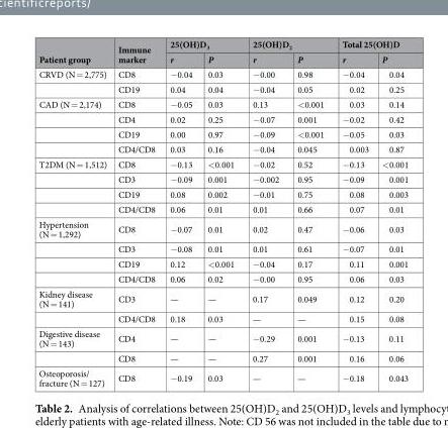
<table><thead><tr><td rowspan="2">Patient group</td><td rowspan="2">Immune marker</td><td colspan="2">25(OH)D<sub>3</sub></td><td colspan="2">25(OH)D<sub>2</sub></td><td colspan="2">Total 25(OH)D</td></tr><tr><td>r</td><td>P</td><td>r</td><td>P</td><td>r</td><td>P</td></tr></thead><tbody><tr><td rowspan="2">CRVD (N = 2,775)</td><td>CD8</td><td>−0.04</td><td>0.03</td><td>−0.00</td><td>0.98</td><td>−0.04</td><td>0.04</td></tr><tr><td>CD19</td><td>0.04</td><td>0.04</td><td>−0.04</td><td>0.05</td><td>0.02</td><td>0.25</td></tr><tr><td rowspan="4">CAD (N = 2,174)</td><td>CD8</td><td>−0.05</td><td>0.03</td><td>0.13</td><td>&lt;0.001</td><td>0.03</td><td>0.14</td></tr><tr><td>CD4</td><td>0.02</td><td>0.25</td><td>−0.07</td><td>0.001</td><td>−0.02</td><td>0.42</td></tr><tr><td>CD19</td><td>0.00</td><td>0.97</td><td>−0.09</td><td>&lt;0.001</td><td>−0.05</td><td>0.03</td></tr><tr><td>CD4/CD8</td><td>0.03</td><td>0.16</td><td>−0.04</td><td>0.045</td><td>0.003</td><td>0.87</td></tr><tr><td rowspan="4">T2DM (N = 1,512)</td><td>CD8</td><td>−0.13</td><td>&lt;0.001</td><td>−0.02</td><td>0.52</td><td>−0.13</td><td>&lt;0.001</td></tr><tr><td>CD3</td><td>−0.09</td><td>0.001</td><td>−0.002</td><td>0.95</td><td>−0.09</td><td>0.001</td></tr><tr><td>CD19</td><td>0.08</td><td>0.002</td><td>−0.01</td><td>0.75</td><td>0.08</td><td>0.003</td></tr><tr><td>CD4/CD8</td><td>0.06</td><td>0.01</td><td>0.01</td><td>0.66</td><td>0.07</td><td>0.01</td></tr><tr><td rowspan="4">Hypertension (N = 1,292)</td><td>CD8</td><td>−0.07</td><td>0.01</td><td>0.02</td><td>0.47</td><td>−0.06</td><td>0.03</td></tr><tr><td>CD3</td><td>−0.08</td><td>0.01</td><td>0.01</td><td>0.61</td><td>−0.07</td><td>0.01</td></tr><tr><td>CD19</td><td>0.12</td><td>&lt;0.001</td><td>−0.04</td><td>0.17</td><td>0.11</td><td>0.001</td></tr><tr><td>CD4/CD8</td><td>0.06</td><td>0.02</td><td>−0.00</td><td>0.95</td><td>0.06</td><td>0.03</td></tr><tr><td rowspan="2">Kidney disease (N = 141)</td><td>CD3</td><td>—</td><td>—</td><td>0.17</td><td>0.049</td><td>0.12</td><td>0.20</td></tr><tr><td>CD4/CD8</td><td>0.18</td><td>0.03</td><td>—</td><td>—</td><td>0.15</td><td>0.08</td></tr><tr><td rowspan="2">Digestive disease (N = 143)</td><td>CD4</td><td>—</td><td>—</td><td>−0.29</td><td>0.001</td><td>−0.13</td><td>0.11</td></tr><tr><td>CD8</td><td>—</td><td>—</td><td>0.27</td><td>0.001</td><td>0.16</td><td>0.06</td></tr><tr><td>Osteoporosis/ fracture (N = 127)</td><td>CD8</td><td>−0.19</td><td>0.03</td><td>—</td><td>—</td><td>−0.18</td><td>0.043</td></tr></tbody></table>